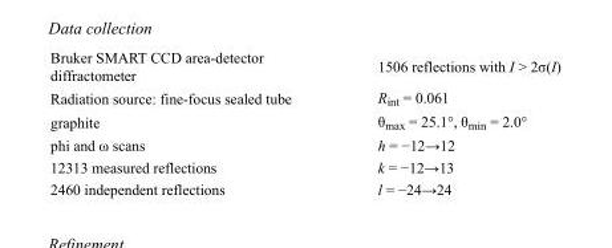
<table><tbody><tr><td>Bruker SMART CCD area-detector diffractometer</td><td>1506 reflections with I &gt; 2σ(I)</td></tr><tr><td>Radiation source: fine-focus sealed tube</td><td>R<sub>int</sub> = 0.061</td></tr><tr><td>graphite</td><td>θ<sub>max</sub> = 25.1°, θ<sub>min</sub> = 2.0°</td></tr><tr><td>phi and ω scans</td><td>h = −12→12</td></tr><tr><td>12313 measured reflections</td><td>k = −12→13</td></tr><tr><td>2460 independent reflections</td><td>l = −24→24</td></tr></tbody></table>